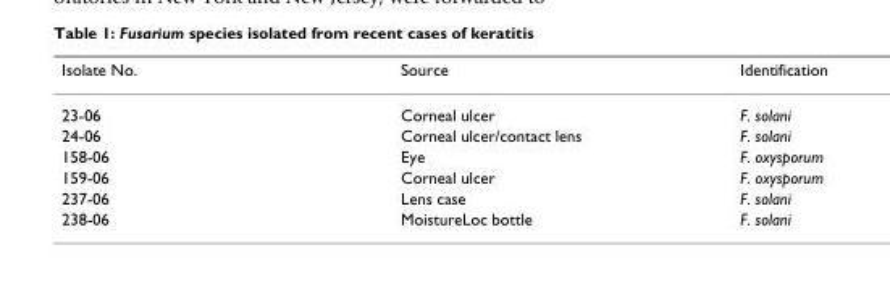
<table><thead><tr><td>Isolate No.</td><td>Source</td><td>Identification</td></tr></thead><tbody><tr><td>23-06</td><td>Corneal ulcer</td><td>F. solani</td></tr><tr><td>24-06</td><td>Corneal ulcer/contact lens</td><td>F. solani</td></tr><tr><td>158-06</td><td>Eye</td><td>F. oxysporum</td></tr><tr><td>159-06</td><td>Corneal ulcer</td><td>F. oxysporum</td></tr><tr><td>237-06</td><td>Lens case</td><td>F. solani</td></tr><tr><td>238-06</td><td>MoistureLoc bottle</td><td>F. solani</td></tr></tbody></table>